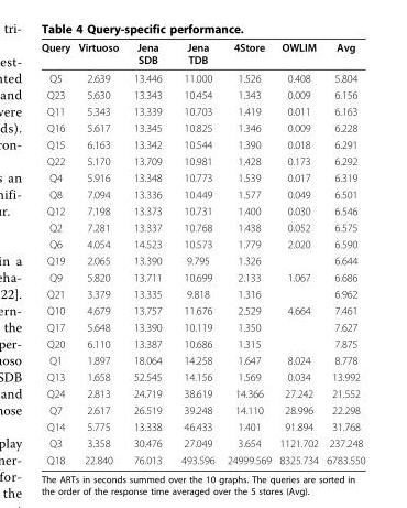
<table><thead><tr><td>Query</td><td>Virtuoso</td><td>Jena SDB</td><td>Jena TDB</td><td>4Store</td><td>OWLIM</td><td>Avg</td></tr></thead><tbody><tr><td>Q5</td><td>2.639</td><td>13.446</td><td>11.000</td><td>1.526</td><td>0.408</td><td>5.804</td></tr><tr><td>Q23</td><td>5.630</td><td>13.343</td><td>10.454</td><td>1.343</td><td>0.009</td><td>6.156</td></tr><tr><td>Q11</td><td>5.343</td><td>13.339</td><td>10.703</td><td>1.419</td><td>0.011</td><td>6.163</td></tr><tr><td>Q16</td><td>5.617</td><td>13.345</td><td>10.825</td><td>1.346</td><td>0.009</td><td>6.228</td></tr><tr><td>Q15</td><td>6.163</td><td>13.342</td><td>10.544</td><td>1.390</td><td>0.018</td><td>6.291</td></tr><tr><td>Q22</td><td>5.170</td><td>13.709</td><td>10.981</td><td>1.428</td><td>0.173</td><td>6.292</td></tr><tr><td>Q4</td><td>5.916</td><td>13.348</td><td>10.773</td><td>1.539</td><td>0.017</td><td>6.319</td></tr><tr><td>Q8</td><td>7.094</td><td>13.336</td><td>10.449</td><td>1.577</td><td>0.049</td><td>6.501</td></tr><tr><td>Q12</td><td>7.198</td><td>13.373</td><td>10.731</td><td>1.400</td><td>0.030</td><td>6.546</td></tr><tr><td>Q2</td><td>7.281</td><td>13.337</td><td>10.768</td><td>1.438</td><td>0.052</td><td>6.575</td></tr><tr><td>Q6</td><td>4.054</td><td>14.523</td><td>10.573</td><td>1.779</td><td>2.020</td><td>6.590</td></tr><tr><td>Q19</td><td>2.065</td><td>13.390</td><td>9.795</td><td>1.326</td><td></td><td>6.644</td></tr><tr><td>Q9</td><td>5.820</td><td>13.711</td><td>10.699</td><td>2.133</td><td>1.067</td><td>6.686</td></tr><tr><td>Q21</td><td>3.379</td><td>13.335</td><td>9.818</td><td>1.316</td><td></td><td>6.962</td></tr><tr><td>Q10</td><td>4.679</td><td>13.757</td><td>11.676</td><td>2.529</td><td>4.664</td><td>7.461</td></tr><tr><td>Q17</td><td>5.648</td><td>13.390</td><td>10.119</td><td>1.350</td><td></td><td>7.627</td></tr><tr><td>Q20</td><td>6.110</td><td>13.387</td><td>10.686</td><td>1.315</td><td></td><td>7.875</td></tr><tr><td>Q1</td><td>1.897</td><td>18.064</td><td>14.258</td><td>1.647</td><td>8.024</td><td>8.778</td></tr><tr><td>Q13</td><td>1.658</td><td>52.545</td><td>14.156</td><td>1.569</td><td>0.034</td><td>13.992</td></tr><tr><td>Q24</td><td>2.813</td><td>24.719</td><td>38.619</td><td>14.366</td><td>27.242</td><td>21.552</td></tr><tr><td>Q7</td><td>2.617</td><td>26.519</td><td>39.248</td><td>14.110</td><td>28.996</td><td>22.298</td></tr><tr><td>Q14</td><td>5.775</td><td>13.338</td><td>46.433</td><td>1.401</td><td>91.894</td><td>31.768</td></tr><tr><td>Q3</td><td>3.358</td><td>30.476</td><td>27.049</td><td>3.654</td><td>1121.702</td><td>237.248</td></tr><tr><td>Q18</td><td>22.840</td><td>76.013</td><td>493.596</td><td>24999.569</td><td>8325.734</td><td>6783.550</td></tr></tbody></table>